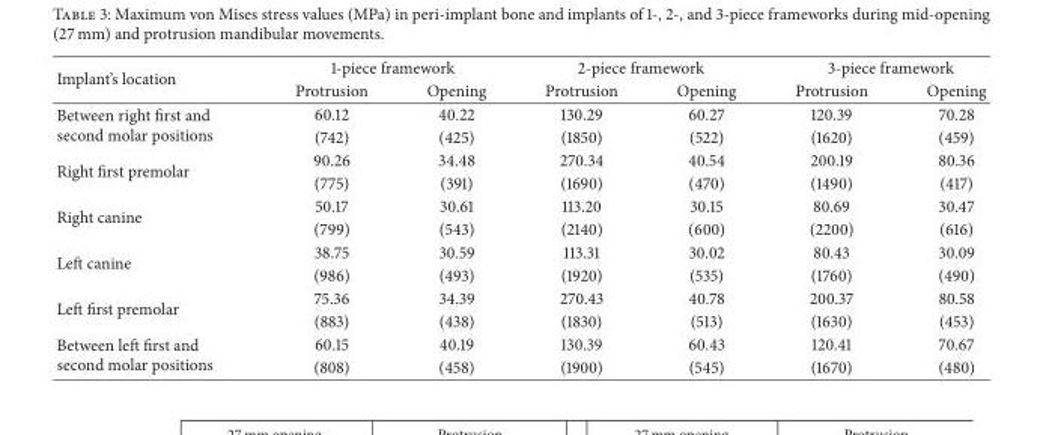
<table><thead><tr><td rowspan="2">Implant’s location</td><td colspan="2">1-piece framework</td><td colspan="2">2-piece framework</td><td colspan="2">3-piece framework</td></tr><tr><td>Protrusion</td><td>Opening</td><td>Protrusion</td><td>Opening</td><td>Protrusion</td><td>Opening</td></tr></thead><tbody><tr><td rowspan="2">Between right first and second molar positions</td><td>60.12</td><td>40.22</td><td>130.29</td><td>60.27</td><td>120.39</td><td>70.28</td></tr><tr><td>(742)</td><td>(425)</td><td>(1850)</td><td>(522)</td><td>(1620)</td><td>(459)</td></tr><tr><td rowspan="2">Right first premolar</td><td>90.26</td><td>34.48</td><td>270.34</td><td>40.54</td><td>200.19</td><td>80.36</td></tr><tr><td>(775)</td><td>(391)</td><td>(1690)</td><td>(470)</td><td>(1490)</td><td>(417)</td></tr><tr><td rowspan="2">Right canine</td><td>50.17</td><td>30.61</td><td>113.20</td><td>30.15</td><td>80.69</td><td>30.47</td></tr><tr><td>(799)</td><td>(543)</td><td>(2140)</td><td>(600)</td><td>(2200)</td><td>(616)</td></tr><tr><td rowspan="2">Left canine</td><td>38.75</td><td>30.59</td><td>113.31</td><td>30.02</td><td>80.43</td><td>30.09</td></tr><tr><td>(986)</td><td>(493)</td><td>(1920)</td><td>(535)</td><td>(1760)</td><td>(490)</td></tr><tr><td rowspan="2">Left first premolar</td><td>75.36</td><td>34.39</td><td>270.43</td><td>40.78</td><td>200.37</td><td>80.58</td></tr><tr><td>(883)</td><td>(438)</td><td>(1830)</td><td>(513)</td><td>(1630)</td><td>(453)</td></tr><tr><td rowspan="2">Between left first and second molar positions</td><td>60.15</td><td>40.19</td><td>130.39</td><td>60.43</td><td>120.41</td><td>70.67</td></tr><tr><td>(808)</td><td>(458)</td><td>(1900)</td><td>(545)</td><td>(1670)</td><td>(480)</td></tr></tbody></table>